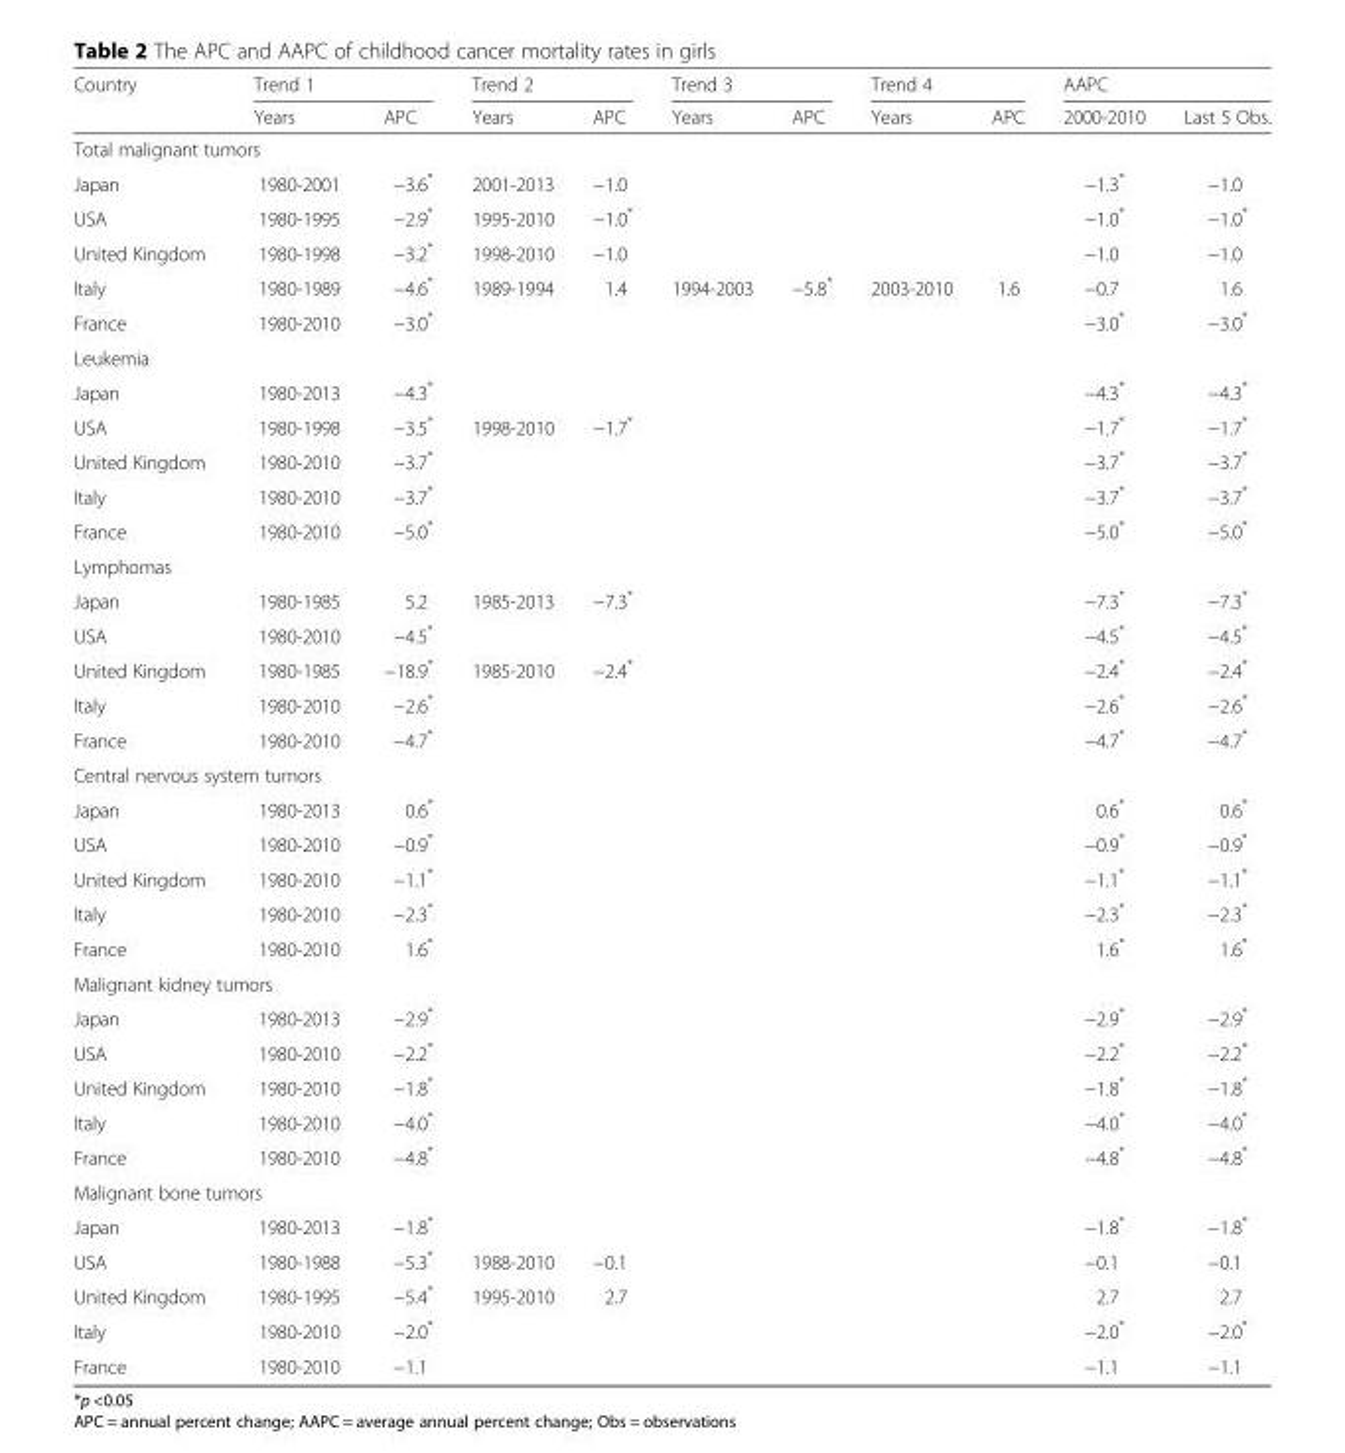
<table><thead><tr><td rowspan="2">Country</td><td colspan="2">Trend 1</td><td colspan="2">Trend 2</td><td colspan="2">Trend 3</td><td colspan="2">Trend 4</td><td colspan="2">AAPC</td></tr><tr><td>Years</td><td>APC</td><td>Years</td><td>APC</td><td>Years</td><td>APC</td><td>Years</td><td>APC</td><td>2000-2010</td><td>Last 5 Obs.</td></tr></thead><tbody><tr><td colspan="11">Total malignant tumors</td></tr><tr><td>Japan</td><td>1980-2001</td><td>−3.6*</td><td>2001-2013</td><td>−1.0</td><td></td><td></td><td></td><td></td><td>−1.3*</td><td>−1.0</td></tr><tr><td>USA</td><td>1980-1995</td><td>−2.9*</td><td>1995-2010</td><td>−1.0*</td><td></td><td></td><td></td><td></td><td>−1.0*</td><td>−1.0*</td></tr><tr><td>United Kingdom</td><td>1980-1998</td><td>−3.2*</td><td>1998-2010</td><td>−1.0</td><td></td><td></td><td></td><td></td><td>−1.0</td><td>−1.0</td></tr><tr><td>Italy</td><td>1980-1989</td><td>−4.6*</td><td>1989-1994</td><td>1.4</td><td>1994-2003</td><td>−5.8*</td><td>2003-2010</td><td>1.6</td><td>−0.7</td><td>1.6</td></tr><tr><td>France</td><td>1980-2010</td><td>−3.0*</td><td></td><td></td><td></td><td></td><td></td><td></td><td>−3.0*</td><td>−3.0*</td></tr><tr><td colspan="11">Leukemia</td></tr><tr><td>Japan</td><td>1980-2013</td><td>−4.3*</td><td></td><td></td><td></td><td></td><td></td><td></td><td>−4.3*</td><td>−4.3*</td></tr><tr><td>USA</td><td>1980-1998</td><td>−3.5*</td><td>1998-2010</td><td>−1.7*</td><td></td><td></td><td></td><td></td><td>−1.7*</td><td>−1.7*</td></tr><tr><td>United Kingdom</td><td>1980-2010</td><td>−3.7*</td><td></td><td></td><td></td><td></td><td></td><td></td><td>−3.7*</td><td>−3.7*</td></tr><tr><td>Italy</td><td>1980-2010</td><td>−3.7*</td><td></td><td></td><td></td><td></td><td></td><td></td><td>−3.7*</td><td>−3.7*</td></tr><tr><td>France</td><td>1980-2010</td><td>−5.0*</td><td></td><td></td><td></td><td></td><td></td><td></td><td>−5.0*</td><td>−5.0*</td></tr><tr><td colspan="11">Lymphomas</td></tr><tr><td>Japan</td><td>1980-1985</td><td>5.2</td><td>1985-2013</td><td>−7.3*</td><td></td><td></td><td></td><td></td><td>−7.3*</td><td>−7.3*</td></tr><tr><td>USA</td><td>1980-2010</td><td>−4.5*</td><td></td><td></td><td></td><td></td><td></td><td></td><td>−4.5*</td><td>−4.5*</td></tr><tr><td>United Kingdom</td><td>1980-1985</td><td>−18.9*</td><td>1985-2010</td><td>−2.4*</td><td></td><td></td><td></td><td></td><td>−2.4*</td><td>−2.4*</td></tr><tr><td>Italy</td><td>1980-2010</td><td>−2.6*</td><td></td><td></td><td></td><td></td><td></td><td></td><td>−2.6*</td><td>−2.6*</td></tr><tr><td>France</td><td>1980-2010</td><td>−4.7*</td><td></td><td></td><td></td><td></td><td></td><td></td><td>−4.7*</td><td>−4.7*</td></tr><tr><td colspan="11">Central nervous system tumors</td></tr><tr><td>Japan</td><td>1980-2013</td><td>0.6*</td><td></td><td></td><td></td><td></td><td></td><td></td><td>0.6*</td><td>0.6*</td></tr><tr><td>USA</td><td>1980-2010</td><td>−0.9*</td><td></td><td></td><td></td><td></td><td></td><td></td><td>−0.9*</td><td>−0.9*</td></tr><tr><td>United Kingdom</td><td>1980-2010</td><td>−1.1*</td><td></td><td></td><td></td><td></td><td></td><td></td><td>−1.1*</td><td>−1.1*</td></tr><tr><td>Italy</td><td>1980-2010</td><td>−2.3*</td><td></td><td></td><td></td><td></td><td></td><td></td><td>−2.3*</td><td>−2.3*</td></tr><tr><td>France</td><td>1980-2010</td><td>1.6*</td><td></td><td></td><td></td><td></td><td></td><td></td><td>1.6*</td><td>1.6*</td></tr><tr><td colspan="11">Malignant kidney tumors</td></tr><tr><td>Japan</td><td>1980-2013</td><td>−2.9*</td><td></td><td></td><td></td><td></td><td></td><td></td><td>−2.9*</td><td>−2.9*</td></tr><tr><td>USA</td><td>1980-2010</td><td>−2.2*</td><td></td><td></td><td></td><td></td><td></td><td></td><td>−2.2*</td><td>−2.2*</td></tr><tr><td>United Kingdom</td><td>1980-2010</td><td>−1.8*</td><td></td><td></td><td></td><td></td><td></td><td></td><td>−1.8*</td><td>−1.8*</td></tr><tr><td>Italy</td><td>1980-2010</td><td>−4.0*</td><td></td><td></td><td></td><td></td><td></td><td></td><td>−4.0*</td><td>−4.0*</td></tr><tr><td>France</td><td>1980-2010</td><td>−4.8*</td><td></td><td></td><td></td><td></td><td></td><td></td><td>−4.8*</td><td>−4.8*</td></tr><tr><td colspan="11">Malignant bone tumors</td></tr><tr><td>Japan</td><td>1980-2013</td><td>−1.8*</td><td></td><td></td><td></td><td></td><td></td><td></td><td>−1.8*</td><td>−1.8*</td></tr><tr><td>USA</td><td>1980-1988</td><td>−5.3*</td><td>1988-2010</td><td>−0.1</td><td></td><td></td><td></td><td></td><td>−0.1</td><td>−0.1</td></tr><tr><td>United Kingdom</td><td>1980-1995</td><td>−5.4*</td><td>1995-2010</td><td>2.7</td><td></td><td></td><td></td><td></td><td>2.7</td><td>2.7</td></tr><tr><td>Italy</td><td>1980-2010</td><td>−2.0*</td><td></td><td></td><td></td><td></td><td></td><td></td><td>−2.0*</td><td>−2.0*</td></tr><tr><td>France</td><td>1980-2010</td><td>−1.1</td><td></td><td></td><td></td><td></td><td></td><td></td><td>−1.1</td><td>−1.1</td></tr></tbody></table>